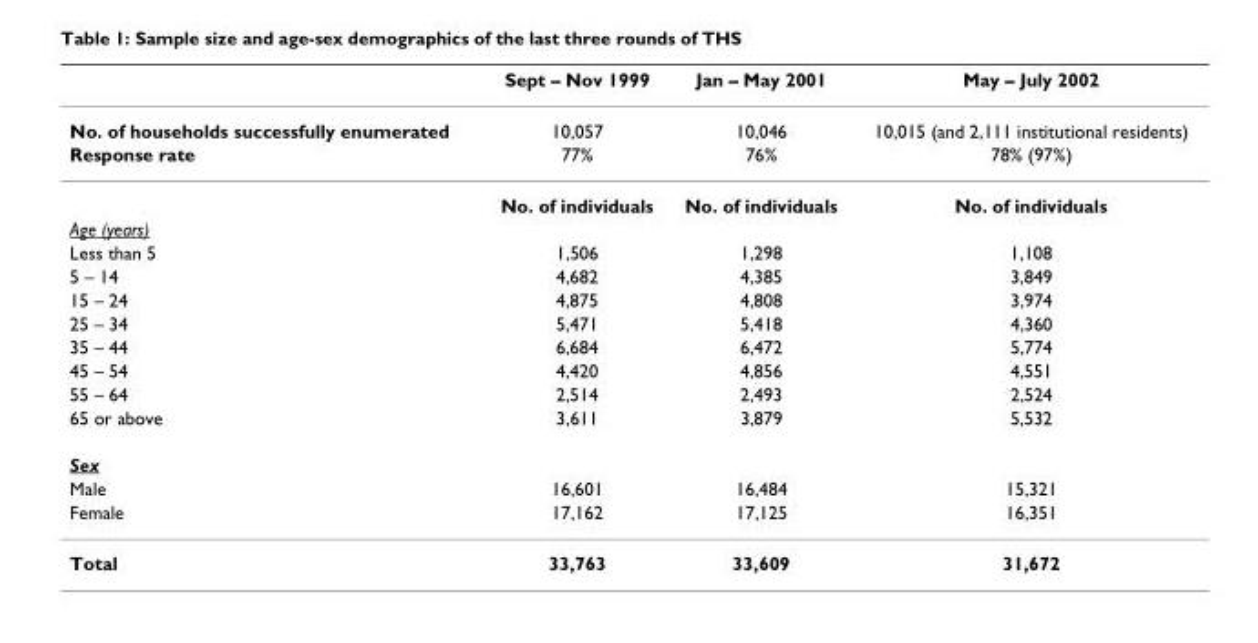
<table><thead><tr><td></td><td>Sept – Nov 1999</td><td>Jan – May 2001</td><td>May – July 2002</td></tr></thead><tbody><tr><td>No. of households successfully enumerated</td><td>10,057</td><td>10,046</td><td>10,015 (and 2,111 institutional residents)</td></tr><tr><td rowspan="2">Response rate</td><td>77%</td><td>76%</td><td>78% (97%)</td></tr><tr><td>No. of individuals</td><td>No. of individuals</td><td>No. of individuals</td></tr><tr><td colspan="4">Age (years)</td></tr><tr><td>Less than 5</td><td>1,506</td><td>1,298</td><td>1,108</td></tr><tr><td>5 – 14</td><td>4,682</td><td>4,385</td><td>3,849</td></tr><tr><td>15 – 24</td><td>4,875</td><td>4,808</td><td>3,974</td></tr><tr><td>25 – 34</td><td>5,471</td><td>5,418</td><td>4,360</td></tr><tr><td>35 – 44</td><td>6,684</td><td>6,472</td><td>5,774</td></tr><tr><td>45 – 54</td><td>4,420</td><td>4,856</td><td>4,551</td></tr><tr><td>55 – 64</td><td>2,514</td><td>2,493</td><td>2,524</td></tr><tr><td>65 or above</td><td>3,611</td><td>3,879</td><td>5,532</td></tr><tr><td colspan="4">Sex</td></tr><tr><td>Male</td><td>16,601</td><td>16,484</td><td>15,321</td></tr><tr><td>Female</td><td>17,162</td><td>17,125</td><td>16,351</td></tr><tr><td>Total</td><td>33,763</td><td>33,609</td><td>31,672</td></tr></tbody></table>